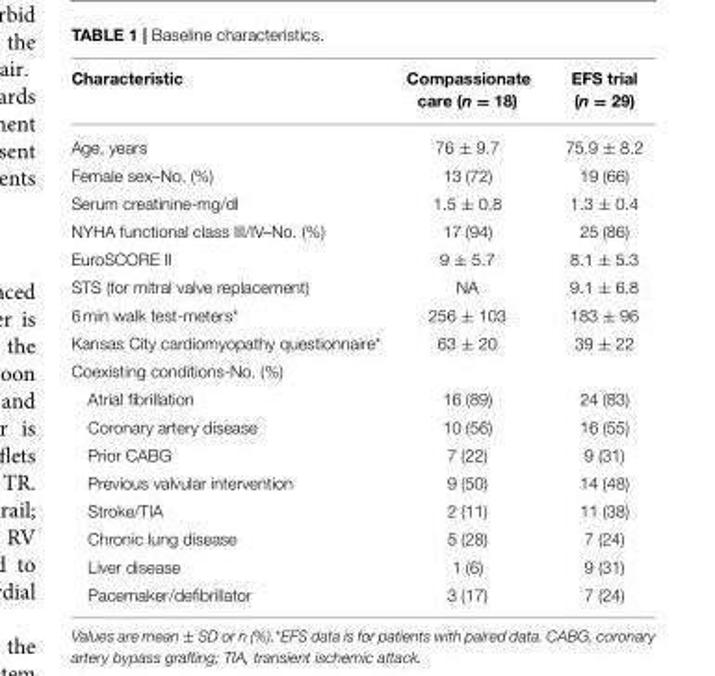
<table><thead><tr><td>Characteristic</td><td>Compassionate care (n = 18)</td><td>EFS trial (n = 29)</td></tr></thead><tbody><tr><td>Age, years</td><td>76 ± 9.7</td><td>75.9 ± 8.2</td></tr><tr><td>Female sex–No. (%)</td><td>13 (72)</td><td>19 (66)</td></tr><tr><td>Serum creatinine-mg/dl</td><td>1.5 ± 0.8</td><td>1.3 ± 0.4</td></tr><tr><td>NYHA functional class III/IV–No. (%)</td><td>17 (94)</td><td>25 (86)</td></tr><tr><td>EuroSCORE II</td><td>9 ± 5.7</td><td>8.1 ± 5.3</td></tr><tr><td>STS (for mitral valve replacement)</td><td>NA</td><td>9.1 ± 6.8</td></tr><tr><td>6 min walk test-meters*</td><td>256 ± 103</td><td>183 ± 96</td></tr><tr><td>Kansas City cardiomyopathy questionnaire*</td><td>63 ± 20</td><td>39 ± 22</td></tr><tr><td colspan="3">Coexisting conditions-No. (%)</td></tr><tr><td>Atrial fibrillation</td><td>16 (89)</td><td>24 (83)</td></tr><tr><td>Coronary artery disease</td><td>10 (56)</td><td>16 (55)</td></tr><tr><td>Prior CABG</td><td>7 (22)</td><td>9 (31)</td></tr><tr><td>Previous valvular intervention</td><td>9 (50)</td><td>14 (48)</td></tr><tr><td>Stroke/TIA</td><td>2 (11)</td><td>11 (38)</td></tr><tr><td>Chronic lung disease</td><td>5 (28)</td><td>7 (24)</td></tr><tr><td>Liver disease</td><td>1 (6)</td><td>9 (31)</td></tr><tr><td>Pacemaker/defibrillator</td><td>3 (17)</td><td>7 (24)</td></tr></tbody></table>